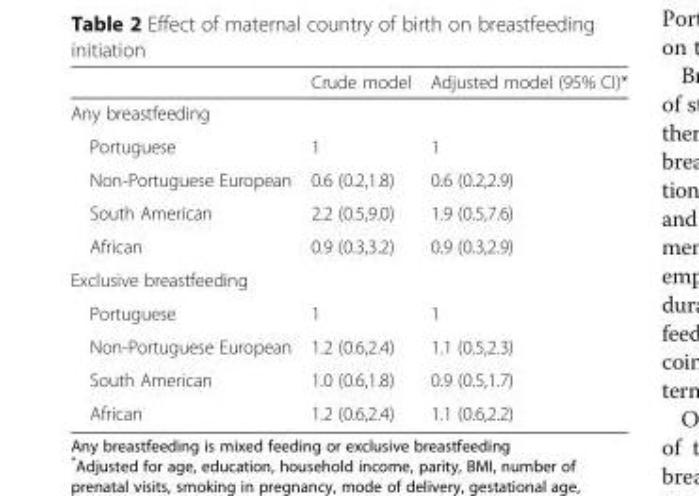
<table><thead><tr><td></td><td>Crude model</td><td>Adjusted model (95% CI)*</td></tr></thead><tbody><tr><td colspan="3">Any breastfeeding</td></tr><tr><td>Portuguese</td><td>1</td><td>1</td></tr><tr><td>Non-Portuguese European</td><td>0.6 (0.2,1.8)</td><td>0.6 (0.2,2.9)</td></tr><tr><td>South American</td><td>2.2 (0.5,9.0)</td><td>1.9 (0.5,7.6)</td></tr><tr><td>African</td><td>0.9 (0.3,3.2)</td><td>0.9 (0.3,2.9)</td></tr><tr><td colspan="3">Exclusive breastfeeding</td></tr><tr><td>Portuguese</td><td>1</td><td>1</td></tr><tr><td>Non-Portuguese European</td><td>1.2 (0.6,2.4)</td><td>1.1 (0.5,2.3)</td></tr><tr><td>South American</td><td>1.0 (0.6,1.8)</td><td>0.9 (0.5,1.7)</td></tr><tr><td>African</td><td>1.2 (0.6,2.4)</td><td>1.1 (0.6,2.2)</td></tr></tbody></table>